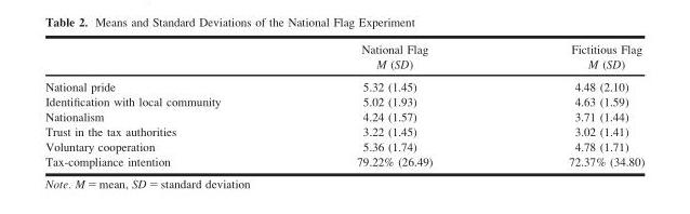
<table><thead><tr><td rowspan="2"></td><td rowspan="2">National Flag M (SD)</td><td rowspan="2">Fictitious Flag M (SD)</td></tr><tr></tr></thead><tbody><tr><td>National pride</td><td>5.32 (1.45)</td><td>4.48 (2.10)</td></tr><tr><td>Identification with local community</td><td>5.02 (1.93)</td><td>4.63 (1.59)</td></tr><tr><td>Nationalism</td><td>4.24 (1.57)</td><td>3.71 (1.44)</td></tr><tr><td>Trust in the tax authorities</td><td>3.22 (1.45)</td><td>3.02 (1.41)</td></tr><tr><td>Voluntary cooperation</td><td>5.36 (1.74)</td><td>4.78 (1.71)</td></tr><tr><td>Tax-compliance intention</td><td>79.22% (26.49)</td><td>72.37% (34.80)</td></tr></tbody></table>